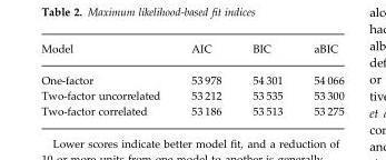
<table><thead><tr><td>Model</td><td>AIC</td><td>BIC</td><td>aBIC</td></tr></thead><tbody><tr><td>One-factor</td><td>53 978</td><td>54 301</td><td>54 066</td></tr><tr><td>Two-factor uncorrelated</td><td>53 212</td><td>53 535</td><td>53 300</td></tr><tr><td>Two-factor correlated</td><td>53 186</td><td>53 513</td><td>53 275</td></tr></tbody></table>